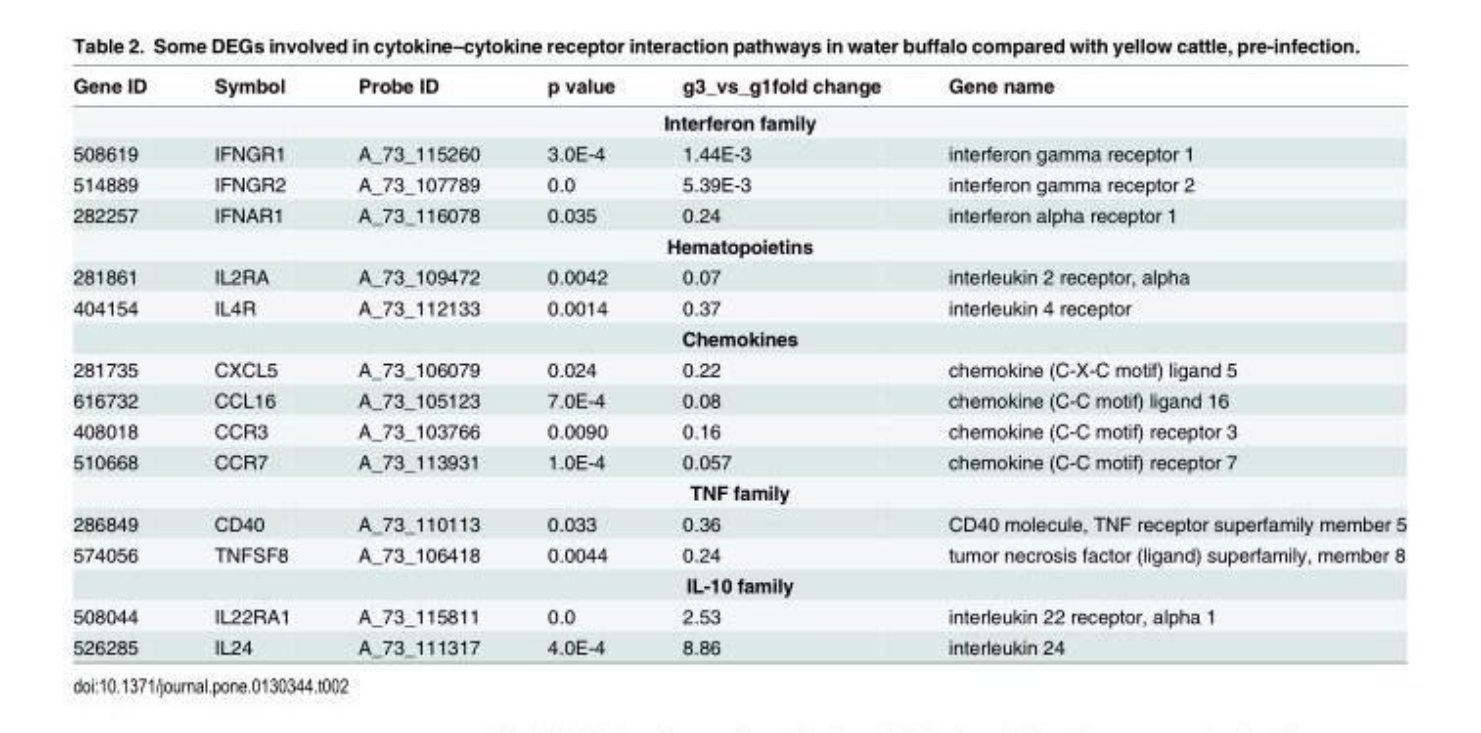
<table><thead><tr><td>Gene ID</td><td>Symbol</td><td>Probe ID</td><td>p value</td><td>g3_vs_g1fold change</td><td>Gene name</td></tr></thead><tbody><tr><td colspan="6">Interferon family</td></tr><tr><td>508619</td><td>IFNGR1</td><td>A_73_115260</td><td>3.0E-4</td><td>1.44E-3</td><td>interferon gamma receptor 1</td></tr><tr><td>514889</td><td>IFNGR2</td><td>A_73_107789</td><td>0.0</td><td>5.39E-3</td><td>interferon gamma receptor 2</td></tr><tr><td>282257</td><td>IFNAR1</td><td>A_73_116078</td><td>0.035</td><td>0.24</td><td>interferon alpha receptor 1</td></tr><tr><td colspan="6">Hematopoietins</td></tr><tr><td>281861</td><td>IL2RA</td><td>A_73_109472</td><td>0.0042</td><td>0.07</td><td>interleukin 2 receptor, alpha</td></tr><tr><td>404154</td><td>IL4R</td><td>A_73_112133</td><td>0.0014</td><td>0.37</td><td>interleukin 4 receptor</td></tr><tr><td colspan="6">Chemokines</td></tr><tr><td>281735</td><td>CXCL5</td><td>A_73_106079</td><td>0.024</td><td>0.22</td><td>chemokine (C-X-C motif) ligand 5</td></tr><tr><td>616732</td><td>CCL16</td><td>A_73_105123</td><td>7.0E-4</td><td>0.08</td><td>chemokine (C-C motif) ligand 16</td></tr><tr><td>408018</td><td>CCR3</td><td>A_73_103766</td><td>0.0090</td><td>0.16</td><td>chemokine (C-C motif) receptor 3</td></tr><tr><td>510668</td><td>CCR7</td><td>A_73_113931</td><td>1.0E-4</td><td>0.057</td><td>chemokine (C-C motif) receptor 7</td></tr><tr><td colspan="6">TNF family</td></tr><tr><td>286849</td><td>CD40</td><td>A_73_110113</td><td>0.033</td><td>0.36</td><td>CD40 molecule, TNF receptor superfamily member 5</td></tr><tr><td>574056</td><td>TNFSF8</td><td>A_73_106418</td><td>0.0044</td><td>0.24</td><td>tumor necrosis factor (ligand) superfamily, member 8</td></tr><tr><td colspan="6">IL-10 family</td></tr><tr><td>508044</td><td>IL22RA1</td><td>A_73_115811</td><td>0.0</td><td>2.53</td><td>interleukin 22 receptor, alpha 1</td></tr><tr><td>526285</td><td>IL24</td><td>A_73_111317</td><td>4.0E-4</td><td>8.86</td><td>interleukin 24</td></tr></tbody></table>